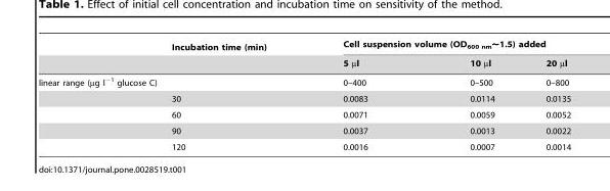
<table><thead><tr><td rowspan="2"></td><td rowspan="2">Incubation time (min)</td><td colspan="3">Cell suspension volume (OD<sub>600 nm</sub>∼1.5) added</td></tr><tr><td>5 µl</td><td>10 µl</td><td>20 µl</td></tr></thead><tbody><tr><td rowspan="5">linear range (µg l<sup>−1</sup> glucose C)</td><td></td><td>0–400</td><td>0–500</td><td>0–800</td></tr><tr><td>30</td><td>0.0083</td><td>0.0114</td><td>0.0135</td></tr><tr><td>60</td><td>0.0071</td><td>0.0059</td><td>0.0052</td></tr><tr><td>90</td><td>0.0037</td><td>0.0013</td><td>0.0022</td></tr><tr><td>120</td><td>0.0016</td><td>0.0007</td><td>0.0014</td></tr></tbody></table>